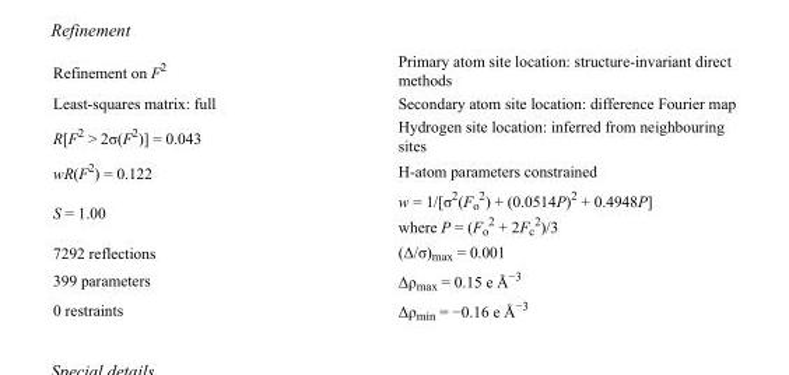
<table><tbody><tr><td>Refinement on F<sup>2</sup></td><td>Primary atom site location: structure-invariant direct methods</td></tr><tr><td>Least-squares matrix: full</td><td>Secondary atom site location: difference Fourier map</td></tr><tr><td>R[F<sup>2</sup> &gt; 2σ(F<sup>2</sup>)] = 0.043</td><td>Hydrogen site location: inferred from neighbouring sites</td></tr><tr><td>wR(F<sup>2</sup>) = 0.122</td><td>H-atom parameters constrained</td></tr><tr><td>S = 1.00</td><td>w = 1/[σ<sup>2</sup>(F<sub>o</sub> <sup>2</sup>) + (0.0514P)<sup>2</sup> + 0.4948P] where P = (F<sub>o</sub> <sup>2</sup> + 2F<sub>c</sub> <sup>2</sup>)/3</td></tr><tr><td>7292 reflections</td><td>(Δ/σ)<sub>max</sub> = 0.001</td></tr><tr><td>399 parameters</td><td>Δρ<sub>max</sub> = 0.15 e Å<sup>−3</sup></td></tr><tr><td>0 restraints</td><td>Δρ<sub>min</sub> = −0.16 e Å<sup>−3</sup></td></tr></tbody></table>